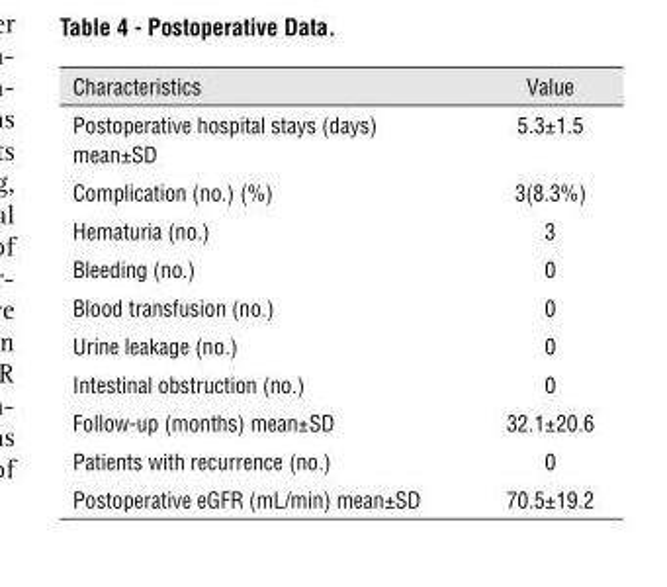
<table><thead><tr><td>Characteristics</td><td>Value</td></tr></thead><tbody><tr><td>Postoperative hospital stays (days)</td><td>5.3±1.5</td></tr><tr><td colspan="2">mean±SD</td></tr><tr><td>Complication (no.) (%)</td><td>3(8.3%)</td></tr><tr><td>Hematuria (no.)</td><td>3</td></tr><tr><td>Bleeding (no.)</td><td>0</td></tr><tr><td>Blood transfusion (no.)</td><td>0</td></tr><tr><td>Urine leakage (no.)</td><td>0</td></tr><tr><td>Intestinal obstruction (no.)</td><td>0</td></tr><tr><td>Follow-up (months) mean±SD</td><td>32.1±20.6</td></tr><tr><td>Patients with recurrence (no.)</td><td>0</td></tr><tr><td>Postoperative eGFR (mL/min) mean±SD</td><td>70.5±19.2</td></tr></tbody></table>